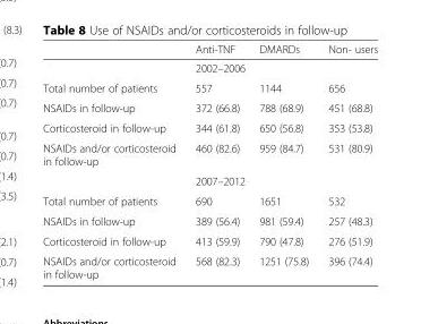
<table><thead><tr><td></td><td>Anti-TNF</td><td>DMARDs</td><td>Non- users</td></tr></thead><tbody><tr><td></td><td colspan="3">2002–2006</td></tr><tr><td>Total number of patients</td><td>557</td><td>1144</td><td>656</td></tr><tr><td>NSAIDs in follow-up</td><td>372 (66.8)</td><td>788 (68.9)</td><td>451 (68.8)</td></tr><tr><td>Corticosteroid in follow-up</td><td>344 (61.8)</td><td>650 (56.8)</td><td>353 (53.8)</td></tr><tr><td rowspan="2">NSAIDs and/or corticosteroid in follow-up</td><td>460 (82.6)</td><td>959 (84.7)</td><td>531 (80.9)</td></tr><tr><td colspan="3">2007–2012</td></tr><tr><td>Total number of patients</td><td>690</td><td>1651</td><td>532</td></tr><tr><td>NSAIDs in follow-up</td><td>389 (56.4)</td><td>981 (59.4)</td><td>257 (48.3)</td></tr><tr><td>Corticosteroid in follow-up</td><td>413 (59.9)</td><td>790 (47.8)</td><td>276 (51.9)</td></tr><tr><td>NSAIDs and/or corticosteroid in follow-up</td><td>568 (82.3)</td><td>1251 (75.8)</td><td>396 (74.4)</td></tr></tbody></table>